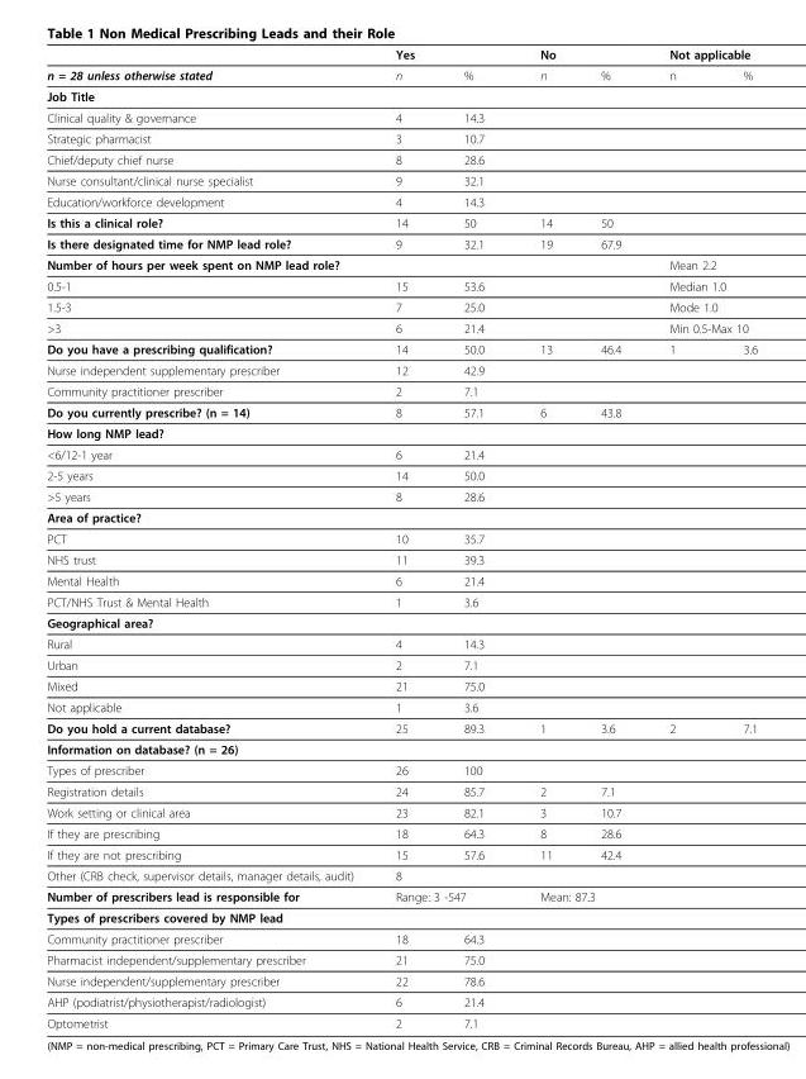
<table><thead><tr><td rowspan="2">n = 28 unless otherwise stated</td><td colspan="2">Yes</td><td colspan="2">No</td><td colspan="2">Not applicable</td></tr><tr><td>n</td><td>%</td><td>n</td><td>%</td><td>n</td><td>%</td></tr></thead><tbody><tr><td colspan="7">Job Title</td></tr><tr><td>Clinical quality &amp; governance</td><td>4</td><td>14.3</td><td></td><td></td><td></td><td></td></tr><tr><td>Strategic pharmacist</td><td>3</td><td>10.7</td><td></td><td></td><td></td><td></td></tr><tr><td>Chief/deputy chief nurse</td><td>8</td><td>28.6</td><td></td><td></td><td></td><td></td></tr><tr><td>Nurse consultant/clinical nurse specialist</td><td>9</td><td>32.1</td><td></td><td></td><td></td><td></td></tr><tr><td>Education/workforce development</td><td>4</td><td>14.3</td><td></td><td></td><td></td><td></td></tr><tr><td>Is this a clinical role?</td><td>14</td><td>50</td><td>14</td><td>50</td><td></td><td></td></tr><tr><td>Is there designated time for NMP lead role?</td><td>9</td><td>32.1</td><td>19</td><td>67.9</td><td></td><td></td></tr><tr><td>Number of hours per week spent on NMP lead role?</td><td></td><td></td><td></td><td></td><td colspan="2">Mean 2.2</td></tr><tr><td>0.5-1</td><td>15</td><td>53.6</td><td></td><td></td><td colspan="2">Median 1.0</td></tr><tr><td>1.5-3</td><td>7</td><td>25.0</td><td></td><td></td><td colspan="2">Mode 1.0</td></tr><tr><td>&gt;3</td><td>6</td><td>21.4</td><td></td><td></td><td colspan="2">Min 0.5-Max 10</td></tr><tr><td>Do you have a prescribing qualification?</td><td>14</td><td>50.0</td><td>13</td><td>46.4</td><td>1</td><td>3.6</td></tr><tr><td>Nurse independent supplementary prescriber</td><td>12</td><td>42.9</td><td></td><td></td><td></td><td></td></tr><tr><td>Community practitioner prescriber</td><td>2</td><td>7.1</td><td></td><td></td><td></td><td></td></tr><tr><td>Do you currently prescribe? (n = 14)</td><td>8</td><td>57.1</td><td>6</td><td>43.8</td><td></td><td></td></tr><tr><td colspan="7">How long NMP lead?</td></tr><tr><td>&lt;6/12-1 year</td><td>6</td><td>21.4</td><td></td><td></td><td></td><td></td></tr><tr><td>2-5 years</td><td>14</td><td>50.0</td><td></td><td></td><td></td><td></td></tr><tr><td>&gt;5 years</td><td>8</td><td>28.6</td><td></td><td></td><td></td><td></td></tr><tr><td colspan="7">Area of practice?</td></tr><tr><td>PCT</td><td>10</td><td>35.7</td><td></td><td></td><td></td><td></td></tr><tr><td>NHS trust</td><td>11</td><td>39.3</td><td></td><td></td><td></td><td></td></tr><tr><td>Mental Health</td><td>6</td><td>21.4</td><td></td><td></td><td></td><td></td></tr><tr><td>PCT/NHS Trust &amp; Mental Health</td><td>1</td><td>3.6</td><td></td><td></td><td></td><td></td></tr><tr><td colspan="7">Geographical area?</td></tr><tr><td>Rural</td><td>4</td><td>14.3</td><td></td><td></td><td></td><td></td></tr><tr><td>Urban</td><td>2</td><td>7.1</td><td></td><td></td><td></td><td></td></tr><tr><td>Mixed</td><td>21</td><td>75.0</td><td></td><td></td><td></td><td></td></tr><tr><td>Not applicable</td><td>1</td><td>3.6</td><td></td><td></td><td></td><td></td></tr><tr><td>Do you hold a current database?</td><td>25</td><td>89.3</td><td>1</td><td>3.6</td><td>2</td><td>7.1</td></tr><tr><td colspan="7">Information on database? (n = 26)</td></tr><tr><td>Types of prescriber</td><td>26</td><td>100</td><td></td><td></td><td></td><td></td></tr><tr><td>Registration details</td><td>24</td><td>85.7</td><td>2</td><td>7.1</td><td></td><td></td></tr><tr><td>Work setting or clinical area</td><td>23</td><td>82.1</td><td>3</td><td>10.7</td><td></td><td></td></tr><tr><td>If they are prescribing</td><td>18</td><td>64.3</td><td>8</td><td>28.6</td><td></td><td></td></tr><tr><td>If they are not prescribing</td><td>15</td><td>57.6</td><td>11</td><td>42.4</td><td></td><td></td></tr><tr><td>Other (CRB check, supervisor details, manager details, audit)</td><td>8</td><td></td><td></td><td></td><td></td><td></td></tr><tr><td>Number of prescribers lead is responsible for</td><td colspan="2">Range: 3 -547</td><td colspan="2">Mean: 87.3</td><td></td><td></td></tr><tr><td colspan="7">Types of prescribers covered by NMP lead</td></tr><tr><td>Community practitioner prescriber</td><td>18</td><td>64.3</td><td></td><td></td><td></td><td></td></tr><tr><td>Pharmacist independent/supplementary prescriber</td><td>21</td><td>75.0</td><td></td><td></td><td></td><td></td></tr><tr><td>Nurse independent/supplementary prescriber</td><td>22</td><td>78.6</td><td></td><td></td><td></td><td></td></tr><tr><td>AHP (podiatrist/physiotherapist/radiologist)</td><td>6</td><td>21.4</td><td></td><td></td><td></td><td></td></tr><tr><td>Optometrist</td><td>2</td><td>7.1</td><td></td><td></td><td></td><td></td></tr></tbody></table>